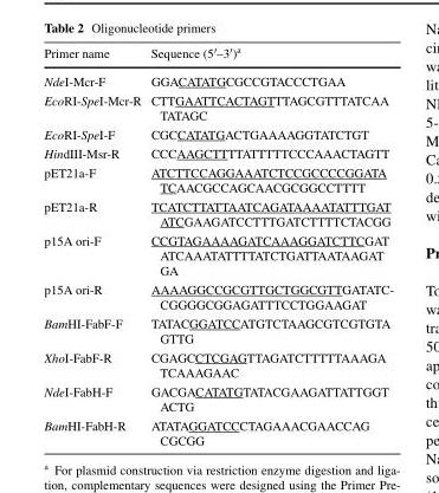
<table><thead><tr><td>Primer name</td><td>Sequence (5′–3′)<sup>a</sup></td></tr></thead><tbody><tr><td>NdeI-Mcr-F</td><td>GGACATATGCGCCGTACCCTGAA</td></tr><tr><td>EcoRI-SpeI-Mcr-R</td><td>CTTGAATTCACTAGTTTAGCGTTTATCAA TATAGC</td></tr><tr><td>EcoRI-SpeI-F</td><td>CGCCATATGACTGAAAAGGTATCTGT</td></tr><tr><td>HindIII-Msr-R</td><td>CCCAAGCTTTTATTTTTCCCAAACTAGTT</td></tr><tr><td>pET21a-F</td><td>ATCTTCCAGGAAATCTCCGCCCCGGATA TCAACGCCAGCAACGCGGCCTTTT</td></tr><tr><td>pET21a-R</td><td>TCATCTTATTAATCAGATAAAATATTTGAT ATCGAAGATCCTTTGATCTTTTCTACGG</td></tr><tr><td>p15A ori-F</td><td>CCGTAGAAAAGATCAAAGGATCTTCGAT ATCAAATATTTTATCTGATTAATAAGAT GA</td></tr><tr><td>p15A ori-R</td><td>AAAAGGCCGCGTTGCTGGCGTTGATATC- CGGGGCGGAGATTTCCTGGAAGAT</td></tr><tr><td>BamHI-FabF-F</td><td>TATACGGATCCATGTCTAAGCGTCGTGTA GTTG</td></tr><tr><td>XhoI-FabF-R</td><td>CGAGCCTCGAGTTAGATCTTTTTAAAGA TCAAAGAAC</td></tr><tr><td>NdeI-FabH-F</td><td>GACGACATATGTATACGAAGATTATTGGT ACTG</td></tr><tr><td>BamHI-FabH-R</td><td>ATATAGGATCCCTAGAAACGAACCAG CGCGG</td></tr></tbody></table>